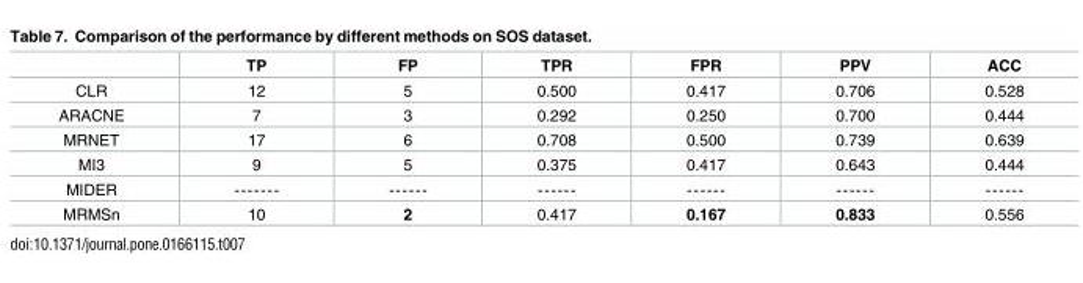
<table><thead><tr><td></td><td>TP</td><td>FP</td><td>TPR</td><td>FPR</td><td>PPV</td><td>ACC</td></tr></thead><tbody><tr><td>CLR</td><td>12</td><td>5</td><td>0.500</td><td>0.417</td><td>0.706</td><td>0.528</td></tr><tr><td>ARACNE</td><td>7</td><td>3</td><td>0.292</td><td>0.250</td><td>0.700</td><td>0.444</td></tr><tr><td>MRNET</td><td>17</td><td>6</td><td>0.708</td><td>0.500</td><td>0.739</td><td>0.639</td></tr><tr><td>MI3</td><td>9</td><td>5</td><td>0.375</td><td>0.417</td><td>0.643</td><td>0.444</td></tr><tr><td>MIDER</td><td>-------</td><td>------</td><td>------</td><td>------</td><td>------</td><td>------</td></tr><tr><td>MRMSn</td><td>10</td><td>2</td><td>0.417</td><td>0.167</td><td>0.833</td><td>0.556</td></tr></tbody></table>